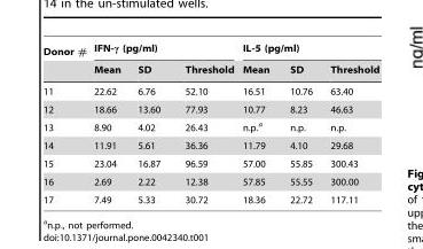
<table><thead><tr><td rowspan="2">Donor #</td><td colspan="3">IFN-γ (pg/ml)</td><td colspan="3">IL-5 (pg/ml)</td></tr><tr><td>Mean</td><td>SD</td><td>Threshold</td><td>Mean</td><td>SD</td><td>Threshold</td></tr></thead><tbody><tr><td>11</td><td>22.62</td><td>6.76</td><td>52.10</td><td>16.51</td><td>10.76</td><td>63.40</td></tr><tr><td>12</td><td>18.66</td><td>13.60</td><td>77.93</td><td>10.77</td><td>8.23</td><td>46.63</td></tr><tr><td>13</td><td>8.90</td><td>4.02</td><td>26.43</td><td>n.p.<sup>a</sup></td><td>n.p.</td><td>n.p.</td></tr><tr><td>14</td><td>11.91</td><td>5.61</td><td>36.36</td><td>11.79</td><td>4.10</td><td>29.68</td></tr><tr><td>15</td><td>23.04</td><td>16.87</td><td>96.59</td><td>57.00</td><td>55.85</td><td>300.43</td></tr><tr><td>16</td><td>2.69</td><td>2.22</td><td>12.38</td><td>57.85</td><td>55.55</td><td>300.00</td></tr><tr><td>17</td><td>7.49</td><td>5.33</td><td>30.72</td><td>18.36</td><td>22.72</td><td>117.11</td></tr></tbody></table>